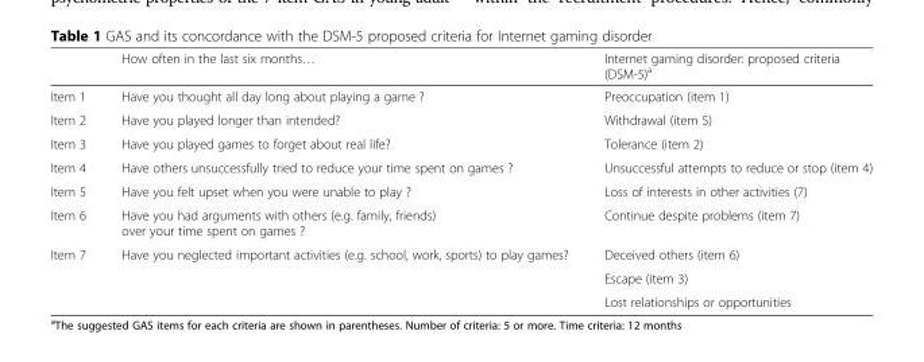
<table><thead><tr><td></td><td>How often in the last six months…</td><td>Internet gaming disorder: proposed criteria (DSM-5)<sup>a</sup></td></tr></thead><tbody><tr><td>Item 1</td><td>Have you thought all day long about playing a game ?</td><td>Preoccupation (item 1)</td></tr><tr><td>Item 2</td><td>Have you played longer than intended?</td><td>Withdrawal (item 5)</td></tr><tr><td>Item 3</td><td>Have you played games to forget about real life?</td><td>Tolerance (item 2)</td></tr><tr><td>Item 4</td><td>Have others unsuccessfully tried to reduce your time spent on games ?</td><td>Unsuccessful attempts to reduce or stop (item 4)</td></tr><tr><td>Item 5</td><td>Have you felt upset when you were unable to play ?</td><td>Loss of interests in other activities (7)</td></tr><tr><td>Item 6</td><td>Have you had arguments with others (e.g. family, friends) over your time spent on games ?</td><td>Continue despite problems (item 7)</td></tr><tr><td rowspan="3">Item 7</td><td>Have you neglected important activities (e.g. school, work, sports) to play games?</td><td>Deceived others (item 6)</td></tr><tr><td></td><td>Escape (item 3)</td></tr><tr><td></td><td>Lost relationships or opportunities</td></tr></tbody></table>